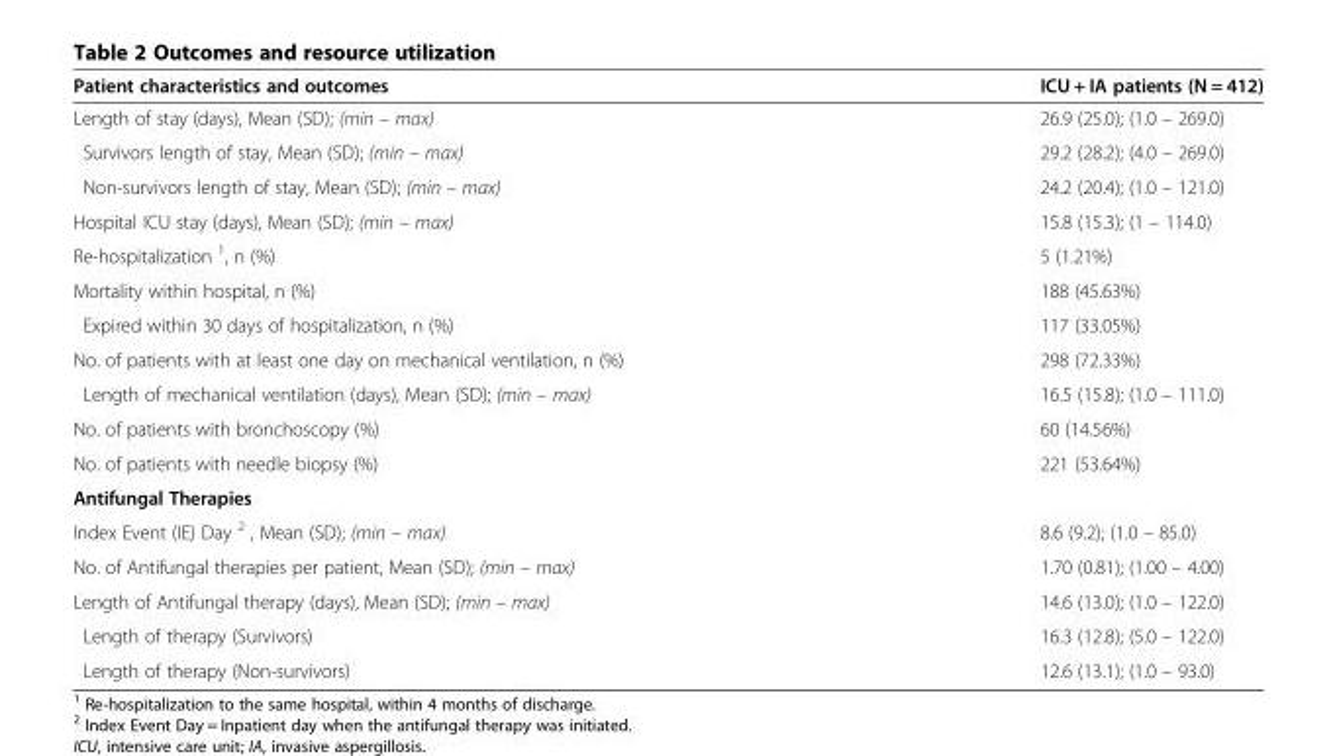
<table><thead><tr><td>Patient characteristics and outcomes</td><td>ICU + IA patients (N = 412)</td></tr></thead><tbody><tr><td>Length of stay (days), Mean (SD); (min – max)</td><td>26.9 (25.0); (1.0 – 269.0)</td></tr><tr><td>Survivors length of stay, Mean (SD); (min – max)</td><td>29.2 (28.2); (4.0 – 269.0)</td></tr><tr><td>Non-survivors length of stay, Mean (SD); (min – max)</td><td>24.2 (20.4); (1.0 – 121.0)</td></tr><tr><td>Hospital ICU stay (days), Mean (SD); (min – max)</td><td>15.8 (15.3); (1 – 114.0)</td></tr><tr><td>Re-hospitalization <sup>1</sup>, n (%)</td><td>5 (1.21%)</td></tr><tr><td>Mortality within hospital, n (%)</td><td>188 (45.63%)</td></tr><tr><td>Expired within 30 days of hospitalization, n (%)</td><td>117 (33.05%)</td></tr><tr><td>No. of patients with at least one day on mechanical ventilation, n (%)</td><td>298 (72.33%)</td></tr><tr><td>Length of mechanical ventilation (days), Mean (SD); (min – max)</td><td>16.5 (15.8); (1.0 – 111.0)</td></tr><tr><td>No. of patients with bronchoscopy (%)</td><td>60 (14.56%)</td></tr><tr><td>No. of patients with needle biopsy (%)</td><td>221 (53.64%)</td></tr><tr><td colspan="2">Antifungal Therapies</td></tr><tr><td>Index Event (IE) Day <sup>2</sup> , Mean (SD); (min – max)</td><td>8.6 (9.2); (1.0 – 85.0)</td></tr><tr><td>No. of Antifungal therapies per patient, Mean (SD); (min – max)</td><td>1.70 (0.81); (1.00 – 4.00)</td></tr><tr><td>Length of Antifungal therapy (days), Mean (SD); (min – max)</td><td>14.6 (13.0); (1.0 – 122.0)</td></tr><tr><td>Length of therapy (Survivors)</td><td>16.3 (12.8); (5.0 – 122.0)</td></tr><tr><td>Length of therapy (Non-survivors)</td><td>12.6 (13.1); (1.0 – 93.0)</td></tr></tbody></table>